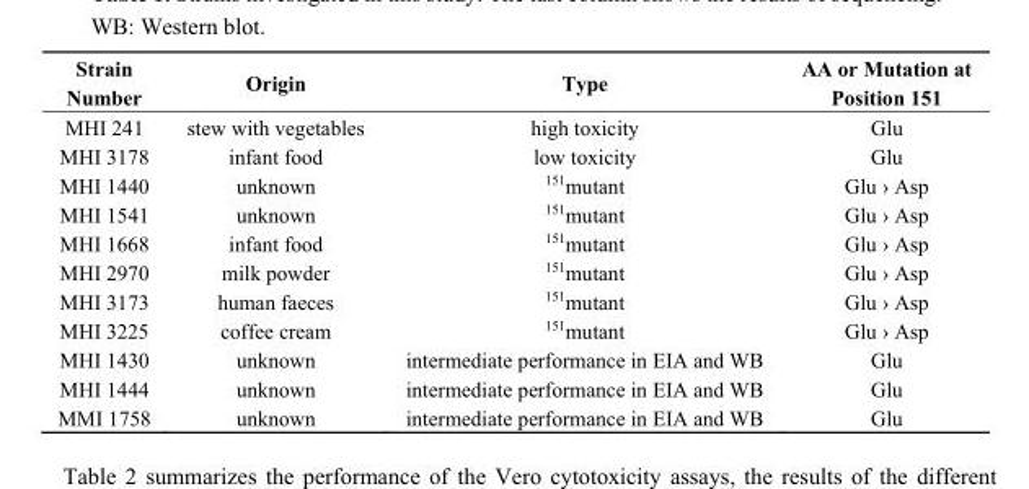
<table><thead><tr><td>Strain Number</td><td>Origin</td><td>Type</td><td>AA or Mutation at Position 151</td></tr></thead><tbody><tr><td>MHI 241</td><td>stew with vegetables</td><td>high toxicity</td><td>Glu</td></tr><tr><td>MHI 3178</td><td>infant food</td><td>low toxicity</td><td>Glu</td></tr><tr><td>MHI 1440</td><td>unknown</td><td><sup>151</sup>mutant</td><td>Glu › Asp</td></tr><tr><td>MHI 1541</td><td>unknown</td><td><sup>151</sup>mutant</td><td>Glu › Asp</td></tr><tr><td>MHI 1668</td><td>infant food</td><td><sup>151</sup>mutant</td><td>Glu › Asp</td></tr><tr><td>MHI 2970</td><td>milk powder</td><td><sup>151</sup>mutant</td><td>Glu › Asp</td></tr><tr><td>MHI 3173</td><td>human faeces</td><td><sup>151</sup>mutant</td><td>Glu › Asp</td></tr><tr><td>MHI 3225</td><td>coffee cream</td><td><sup>151</sup>mutant</td><td>Glu › Asp</td></tr><tr><td>MHI 1430</td><td>unknown</td><td>intermediate performance in EIA and WB</td><td>Glu</td></tr><tr><td>MHI 1444</td><td>unknown</td><td>intermediate performance in EIA and WB</td><td>Glu</td></tr><tr><td>MMI 1758</td><td>unknown</td><td>intermediate performance in EIA and WB</td><td>Glu</td></tr></tbody></table>